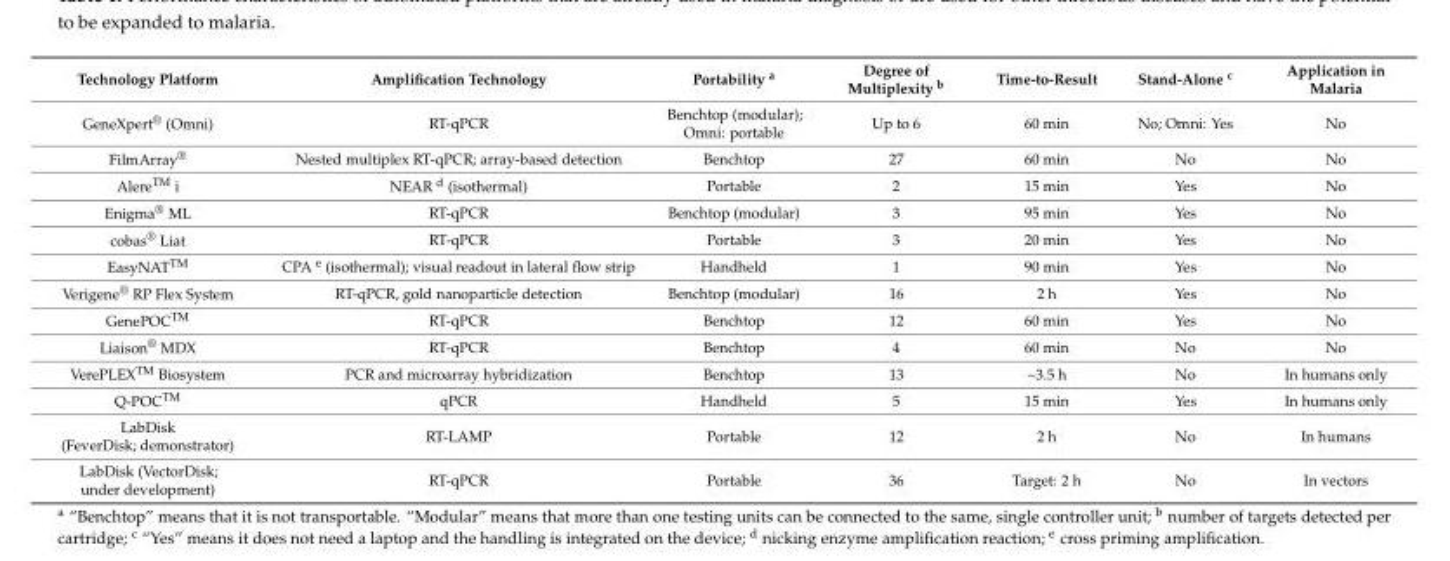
<table><thead><tr><td>Technology Platform</td><td>Amplification Technology</td><td>Portability <sup>a</sup></td><td>Degree of Multiplexity <sup>b</sup></td><td>Time-to-Result</td><td>Stand-Alone <sup>c</sup></td><td>Application in Malaria</td></tr></thead><tbody><tr><td>GeneXpert<sup>®</sup> (Omni)</td><td>RT-qPCR</td><td>Benchtop (modular); Omni: portable</td><td>Up to 6</td><td>60 min</td><td>No; Omni: Yes</td><td>No</td></tr><tr><td>FilmArray<sup>®</sup></td><td>Nested multiplex RT-qPCR; array-based detection</td><td>Benchtop</td><td>27</td><td>60 min</td><td>No</td><td>No</td></tr><tr><td>Alere<sup>TM</sup> i</td><td>NEAR <sup>d</sup> (isothermal)</td><td>Portable</td><td>2</td><td>15 min</td><td>Yes</td><td>No</td></tr><tr><td>Enigma<sup>®</sup> ML</td><td>RT-qPCR</td><td>Benchtop (modular)</td><td>3</td><td>95 min</td><td>Yes</td><td>No</td></tr><tr><td>cobas<sup>®</sup> Liat</td><td>RT-qPCR</td><td>Portable</td><td>3</td><td>20 min</td><td>Yes</td><td>No</td></tr><tr><td>EasyNAT<sup>TM</sup></td><td>CPA <sup>e</sup> (isothermal); visual readout in lateral flow strip</td><td>Handheld</td><td>1</td><td>90 min</td><td>Yes</td><td>No</td></tr><tr><td>Verigene<sup>®</sup> RP Flex System</td><td>RT-qPCR, gold nanoparticle detection</td><td>Benchtop (modular)</td><td>16</td><td>2 h</td><td>Yes</td><td>No</td></tr><tr><td>GenePOC<sup>TM</sup></td><td>RT-qPCR</td><td>Benchtop</td><td>12</td><td>60 min</td><td>Yes</td><td>No</td></tr><tr><td>Liaison<sup>®</sup> MDX</td><td>RT-qPCR</td><td>Benchtop</td><td>4</td><td>60 min</td><td>No</td><td>No</td></tr><tr><td>VerePLEX<sup>TM</sup> Biosystem</td><td>PCR and microarray hybridization</td><td>Benchtop</td><td>13</td><td>~3.5 h</td><td>No</td><td>In humans only</td></tr><tr><td>Q-POC<sup>TM</sup></td><td>qPCR</td><td>Handheld</td><td>5</td><td>15 min</td><td>Yes</td><td>In humans only</td></tr><tr><td>LabDisk (FeverDisk; demonstrator)</td><td>RT-LAMP</td><td>Portable</td><td>12</td><td>2 h</td><td>No</td><td>In humans</td></tr><tr><td>LabDisk (VectorDisk; under development)</td><td>RT-qPCR</td><td>Portable</td><td>36</td><td>Target: 2 h</td><td>No</td><td>In vectors</td></tr></tbody></table>